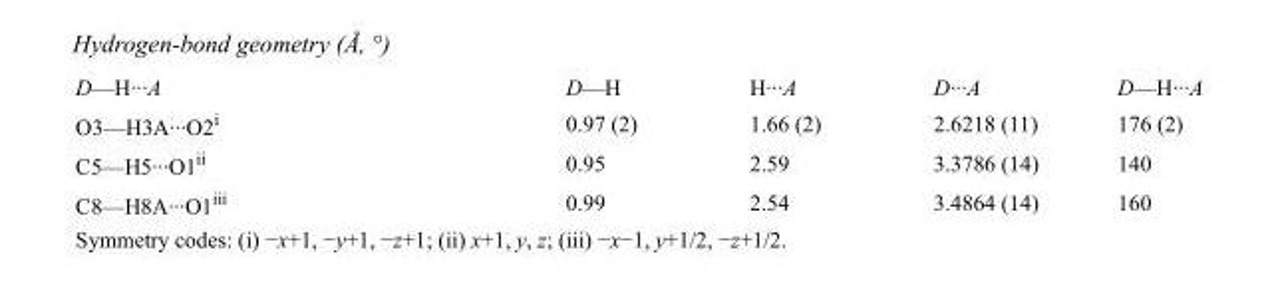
<table><tbody><tr><td>D—H···A</td><td>D—H</td><td>H···A</td><td>D···A</td><td>D—H···A</td></tr><tr><td>O3—H3A···O2<sup>i</sup></td><td>0.97 (2)</td><td>1.66 (2)</td><td>2.6218 (11)</td><td>176 (2)</td></tr><tr><td>C5—H5···O1<sup>ii</sup></td><td>0.95</td><td>2.59</td><td>3.3786 (14)</td><td>140</td></tr><tr><td>C8—H8A···O1<sup>iii</sup></td><td>0.99</td><td>2.54</td><td>3.4864 (14)</td><td>160</td></tr></tbody></table>